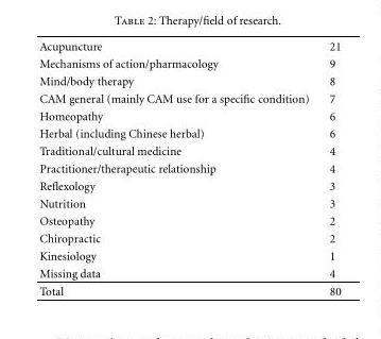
<table><tbody><tr><td>Acupuncture</td><td>21</td></tr><tr><td>Mechanisms of action/pharmacology</td><td>9</td></tr><tr><td>Mind/body therapy</td><td>8</td></tr><tr><td>CAM general (mainly CAM use for a specific condition)</td><td>7</td></tr><tr><td>Homeopathy</td><td>6</td></tr><tr><td>Herbal (including Chinese herbal)</td><td>6</td></tr><tr><td>Traditional/cultural medicine</td><td>4</td></tr><tr><td>Practitioner/therapeutic relationship</td><td>4</td></tr><tr><td>Reflexology</td><td>3</td></tr><tr><td>Nutrition</td><td>3</td></tr><tr><td>Osteopathy</td><td>2</td></tr><tr><td>Chiropractic</td><td>2</td></tr><tr><td>Kinesiology</td><td>1</td></tr><tr><td>Missing data</td><td>4</td></tr><tr><td>Total</td><td>80</td></tr></tbody></table>